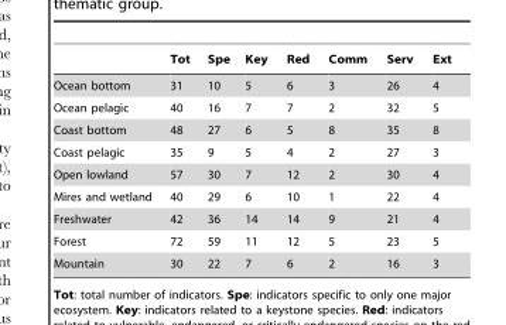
<table><thead><tr><td></td><td>Tot</td><td>Spe</td><td>Key</td><td>Red</td><td>Comm</td><td>Serv</td><td>Ext</td></tr></thead><tbody><tr><td>Ocean bottom</td><td>31</td><td>10</td><td>5</td><td>6</td><td>3</td><td>26</td><td>4</td></tr><tr><td>Ocean pelagic</td><td>40</td><td>16</td><td>7</td><td>7</td><td>2</td><td>32</td><td>5</td></tr><tr><td>Coast bottom</td><td>48</td><td>27</td><td>6</td><td>5</td><td>8</td><td>35</td><td>8</td></tr><tr><td>Coast pelagic</td><td>35</td><td>9</td><td>5</td><td>4</td><td>2</td><td>27</td><td>3</td></tr><tr><td>Open lowland</td><td>57</td><td>30</td><td>7</td><td>12</td><td>2</td><td>30</td><td>4</td></tr><tr><td>Mires and wetland</td><td>40</td><td>29</td><td>6</td><td>10</td><td>1</td><td>22</td><td>4</td></tr><tr><td>Freshwater</td><td>42</td><td>36</td><td>14</td><td>14</td><td>9</td><td>21</td><td>4</td></tr><tr><td>Forest</td><td>72</td><td>59</td><td>11</td><td>12</td><td>5</td><td>23</td><td>5</td></tr><tr><td>Mountain</td><td>30</td><td>22</td><td>7</td><td>6</td><td>2</td><td>16</td><td>3</td></tr></tbody></table>